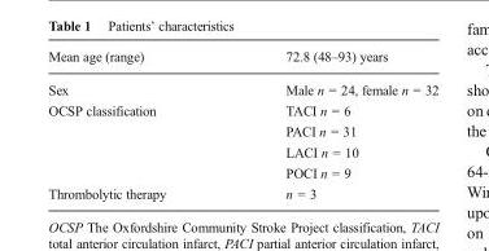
<table><thead><tr><td>Mean age (range)</td><td>72.8 (48–93) years</td></tr></thead><tbody><tr><td>Sex</td><td>Male n = 24, female n = 32</td></tr><tr><td rowspan="4">OCSP classification</td><td>TACI n = 6</td></tr><tr><td>PACI n = 31</td></tr><tr><td>LACI n = 10</td></tr><tr><td>POCI n = 9</td></tr><tr><td>Thrombolytic therapy</td><td>n = 3</td></tr></tbody></table>